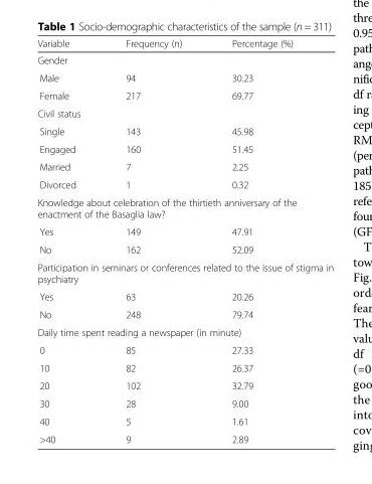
<table><thead><tr><td>Variable</td><td>Frequency (n)</td><td>Percentage (%)</td></tr></thead><tbody><tr><td colspan="3">Gender</td></tr><tr><td>Male</td><td>94</td><td>30.23</td></tr><tr><td>Female</td><td>217</td><td>69.77</td></tr><tr><td colspan="3">Civil status</td></tr><tr><td>Single</td><td>143</td><td>45.98</td></tr><tr><td>Engaged</td><td>160</td><td>51.45</td></tr><tr><td>Married</td><td>7</td><td>2.25</td></tr><tr><td>Divorced</td><td>1</td><td>0.32</td></tr><tr><td colspan="3">Knowledge about celebration of the thirtieth anniversary of the enactment of the Basaglia law?</td></tr><tr><td>Yes</td><td>149</td><td>47.91</td></tr><tr><td>No</td><td>162</td><td>52.09</td></tr><tr><td colspan="3">Participation in seminars or conferences related to the issue of stigma in psychiatry</td></tr><tr><td>Yes</td><td>63</td><td>20.26</td></tr><tr><td>No</td><td>248</td><td>79.74</td></tr><tr><td colspan="3">Daily time spent reading a newspaper (in minute)</td></tr><tr><td>0</td><td>85</td><td>27.33</td></tr><tr><td>10</td><td>82</td><td>26.37</td></tr><tr><td>20</td><td>102</td><td>32.79</td></tr><tr><td>30</td><td>28</td><td>9.00</td></tr><tr><td>40</td><td>5</td><td>1.61</td></tr><tr><td>&gt;40</td><td>9</td><td>2.89</td></tr></tbody></table>